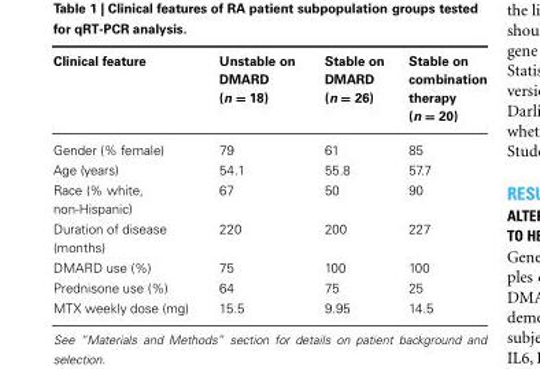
<table><thead><tr><td>Clinical feature</td><td>Unstable on DMARD (n = 18)</td><td>Stable on DMARD (n = 26)</td><td>Stable on combination therapy (n = 20)</td></tr></thead><tbody><tr><td>Gender (% female)</td><td>79</td><td>61</td><td>85</td></tr><tr><td>Age (years)</td><td>54.1</td><td>55.8</td><td>57.7</td></tr><tr><td>Race (% white, non-Hispanic)</td><td>67</td><td>50</td><td>90</td></tr><tr><td>Duration of disease (months)</td><td>220</td><td>200</td><td>227</td></tr><tr><td>DMARD use (%)</td><td>75</td><td>100</td><td>100</td></tr><tr><td>Prednisone use (%)</td><td>64</td><td>75</td><td>25</td></tr><tr><td>MTX weekly dose (mg)</td><td>15.5</td><td>9.95</td><td>14.5</td></tr></tbody></table>